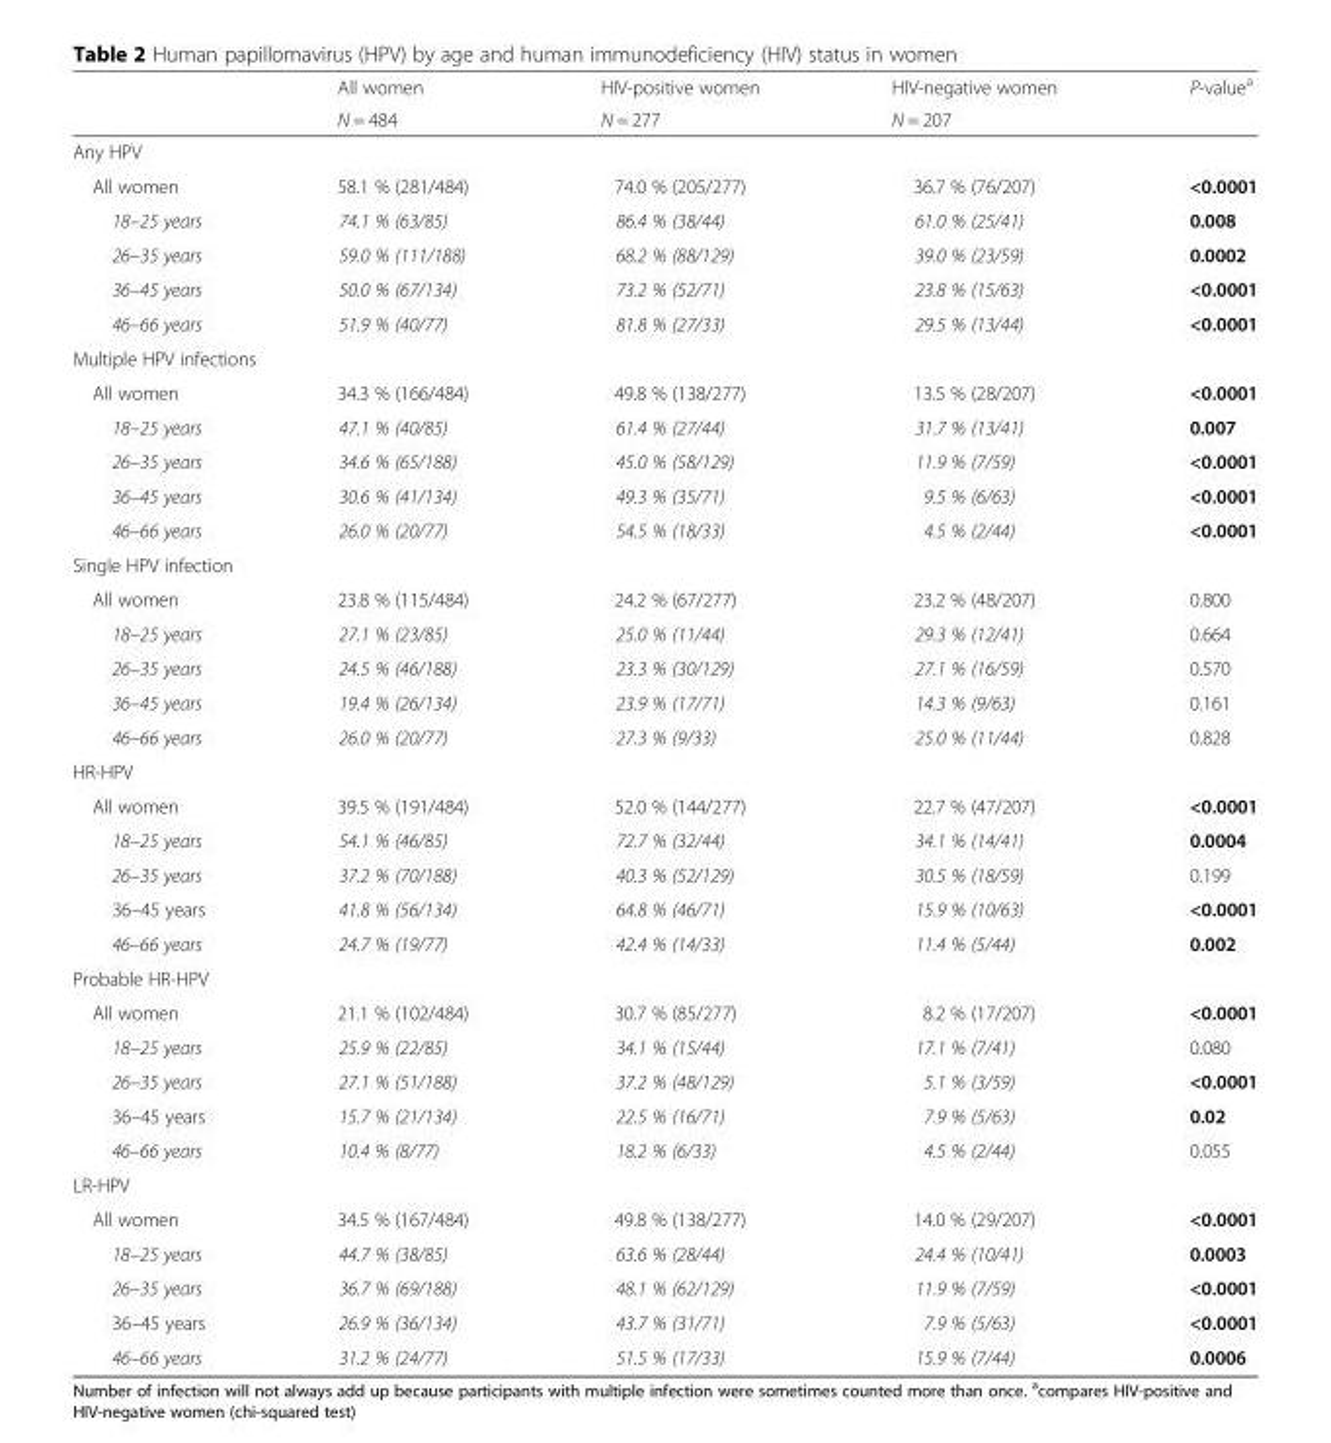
<table><thead><tr><td rowspan="2"></td><td rowspan="2">All women N = 484</td><td rowspan="2">HIV-positive women N = 277</td><td rowspan="2">HIV-negative women N = 207</td><td rowspan="2">P-value<sup>a</sup></td></tr><tr></tr></thead><tbody><tr><td colspan="5">Any HPV</td></tr><tr><td>All women</td><td>58.1 % (281/484)</td><td>74.0 % (205/277)</td><td>36.7 % (76/207)</td><td>&lt;0.0001</td></tr><tr><td>18–25 years</td><td>74.1 % (63/85)</td><td>86.4 % (38/44)</td><td>61.0 % (25/41)</td><td>0.008</td></tr><tr><td>26–35 years</td><td>59.0 % (111/188)</td><td>68.2 % (88/129)</td><td>39.0 % (23/59)</td><td>0.0002</td></tr><tr><td>36–45 years</td><td>50.0 % (67/134)</td><td>73.2 % (52/71)</td><td>23.8 % (15/63)</td><td>&lt;0.0001</td></tr><tr><td>46–66 years</td><td>51.9 % (40/77)</td><td>81.8 % (27/33)</td><td>29.5 % (13/44)</td><td>&lt;0.0001</td></tr><tr><td colspan="5">Multiple HPV infections</td></tr><tr><td>All women</td><td>34.3 % (166/484)</td><td>49.8 % (138/277)</td><td>13.5 % (28/207)</td><td>&lt;0.0001</td></tr><tr><td>18–25 years</td><td>47.1 % (40/85)</td><td>61.4 % (27/44)</td><td>31.7 % (13/41)</td><td>0.007</td></tr><tr><td>26–35 years</td><td>34.6 % (65/188)</td><td>45.0 % (58/129)</td><td>11.9 % (7/59)</td><td>&lt;0.0001</td></tr><tr><td>36–45 years</td><td>30.6 % (41/134)</td><td>49.3 % (35/71)</td><td>9.5 % (6/63)</td><td>&lt;0.0001</td></tr><tr><td>46–66 years</td><td>26.0 % (20/77)</td><td>54.5 % (18/33)</td><td>4.5 % (2/44)</td><td>&lt;0.0001</td></tr><tr><td colspan="5">Single HPV infection</td></tr><tr><td>All women</td><td>23.8 % (115/484)</td><td>24.2 % (67/277)</td><td>23.2 % (48/207)</td><td>0.800</td></tr><tr><td>18–25 years</td><td>27.1 % (23/85)</td><td>25.0 % (11/44)</td><td>29.3 % (12/41)</td><td>0.664</td></tr><tr><td>26–35 years</td><td>24.5 % (46/188)</td><td>23.3 % (30/129)</td><td>27.1 % (16/59)</td><td>0.570</td></tr><tr><td>36–45 years</td><td>19.4 % (26/134)</td><td>23.9 % (17/71)</td><td>14.3 % (9/63)</td><td>0.161</td></tr><tr><td>46–66 years</td><td>26.0 % (20/77)</td><td>27.3 % (9/33)</td><td>25.0 % (11/44)</td><td>0.828</td></tr><tr><td colspan="5">HR-HPV</td></tr><tr><td>All women</td><td>39.5 % (191/484)</td><td>52.0 % (144/277)</td><td>22.7 % (47/207)</td><td>&lt;0.0001</td></tr><tr><td>18–25 years</td><td>54.1 % (46/85)</td><td>72.7 % (32/44)</td><td>34.1 % (14/41)</td><td>0.0004</td></tr><tr><td>26–35 years</td><td>37.2 % (70/188)</td><td>40.3 % (52/129)</td><td>30.5 % (18/59)</td><td>0.199</td></tr><tr><td>36–45 years</td><td>41.8 % (56/134)</td><td>64.8 % (46/71)</td><td>15.9 % (10/63)</td><td>&lt;0.0001</td></tr><tr><td>46–66 years</td><td>24.7 % (19/77)</td><td>42.4 % (14/33)</td><td>11.4 % (5/44)</td><td>0.002</td></tr><tr><td colspan="5">Probable HR-HPV</td></tr><tr><td>All women</td><td>21.1 % (102/484)</td><td>30.7 % (85/277)</td><td>8.2 % (17/207)</td><td>&lt;0.0001</td></tr><tr><td>18–25 years</td><td>25.9 % (22/85)</td><td>34.1 % (15/44)</td><td>17.1 % (7/41)</td><td>0.080</td></tr><tr><td>26–35 years</td><td>27.1 % (51/188)</td><td>37.2 % (48/129)</td><td>5.1 % (3/59)</td><td>&lt;0.0001</td></tr><tr><td>36–45 years</td><td>15.7 % (21/134)</td><td>22.5 % (16/71)</td><td>7.9 % (5/63)</td><td>0.02</td></tr><tr><td>46–66 years</td><td>10.4 % (8/77)</td><td>18.2 % (6/33)</td><td>4.5 % (2/44)</td><td>0.055</td></tr><tr><td colspan="5">LR-HPV</td></tr><tr><td>All women</td><td>34.5 % (167/484)</td><td>49.8 % (138/277)</td><td>14.0 % (29/207)</td><td>&lt;0.0001</td></tr><tr><td>18–25 years</td><td>44.7 % (38/85)</td><td>63.6 % (28/44)</td><td>24.4 % (10/41)</td><td>0.0003</td></tr><tr><td>26–35 years</td><td>36.7 % (69/188)</td><td>48.1 % (62/129)</td><td>11.9 % (7/59)</td><td>&lt;0.0001</td></tr><tr><td>36–45 years</td><td>26.9 % (36/134)</td><td>43.7 % (31/71)</td><td>7.9 % (5/63)</td><td>&lt;0.0001</td></tr><tr><td>46–66 years</td><td>31.2 % (24/77)</td><td>51.5 % (17/33)</td><td>15.9 % (7/44)</td><td>0.0006</td></tr></tbody></table>